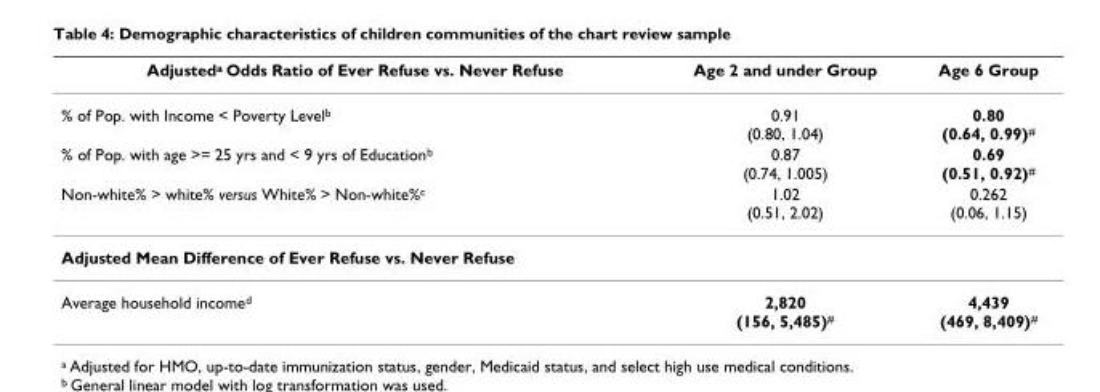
<table><thead><tr><td>Adjusted<sup>a</sup> Odds Ratio of Ever Refuse vs. Never Refuse</td><td>Age 2 and under Group</td><td>Age 6 Group</td></tr></thead><tbody><tr><td>% of Pop. with Income &lt; Poverty Level<sup>b</sup></td><td>0.91 (0.80, 1.04)</td><td>0.80 (0.64, 0.99)<sup>#</sup></td></tr><tr><td>% of Pop. with age &gt;= 25 yrs and &lt; 9 yrs of Education<sup>b</sup></td><td>0.87 (0.74, 1.005)</td><td>0.69 (0.51, 0.92)<sup>#</sup></td></tr><tr><td>Non-white% &gt; white% versus White% &gt; Non-white%<sup>c</sup></td><td>1.02 (0.51, 2.02)</td><td>0.262 (0.06, 1.15)</td></tr><tr><td colspan="3">Adjusted Mean Difference of Ever Refuse vs. Never Refuse</td></tr><tr><td>Average household income<sup>d</sup></td><td>2,820 (156, 5,485)<sup>#</sup></td><td>4,439 (469, 8,409)<sup>#</sup></td></tr></tbody></table>